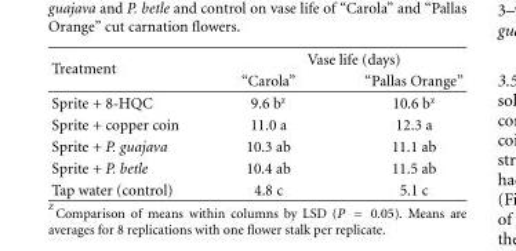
<table><thead><tr><td rowspan="2">Treatment</td><td colspan="2">Vase life (days)</td></tr><tr><td>“Carola”</td><td>“Pallas Orange”</td></tr></thead><tbody><tr><td>Sprite + 8-HQC</td><td>9.6 b<sup>z</sup></td><td>10.6 b<sup>z</sup></td></tr><tr><td>Sprite + copper coin</td><td>11.0 a</td><td>12.3 a</td></tr><tr><td>Sprite + P. guajava</td><td>10.3 ab</td><td>11.1 ab</td></tr><tr><td>Sprite + P. betle</td><td>10.4 ab</td><td>11.5 ab</td></tr><tr><td>Tap water (control)</td><td>4.8 c</td><td>5.1 c</td></tr></tbody></table>